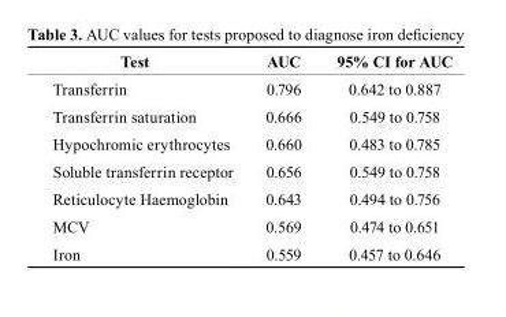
<table><thead><tr><td>Test</td><td>AUC</td><td>95% CI for AUC</td></tr></thead><tbody><tr><td>Transferrin</td><td>0.796</td><td>0.642 to 0.887</td></tr><tr><td>Transferrin saturation</td><td>0.666</td><td>0.549 to 0.758</td></tr><tr><td>Hypochromic erythrocytes</td><td>0.660</td><td>0.483 to 0.785</td></tr><tr><td>Soluble transferrin receptor</td><td>0.656</td><td>0.549 to 0.758</td></tr><tr><td>Reticulocyte Haemoglobin</td><td>0.643</td><td>0.494 to 0.756</td></tr><tr><td>MCV</td><td>0.569</td><td>0.474 to 0.651</td></tr><tr><td>Iron</td><td>0.559</td><td>0.457 to 0.646</td></tr></tbody></table>